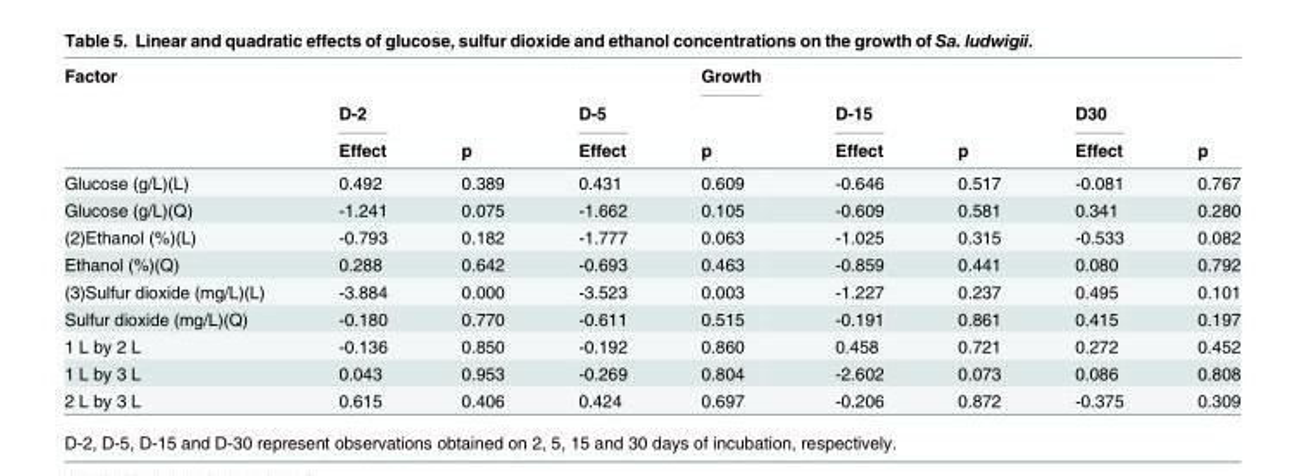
<table><thead><tr><td rowspan="3">Factor</td><td rowspan="3">D-2 Effect</td><td rowspan="3">p</td><td rowspan="3">D-5 Effect</td><td rowspan="3">Growth p</td><td rowspan="3">D-15 Effect</td><td rowspan="3">p</td><td rowspan="3">D30 Effect</td><td rowspan="3">p</td></tr><tr></tr><tr></tr></thead><tbody><tr><td>Glucose (g/L)(L)</td><td>0.492</td><td>0.389</td><td>0.431</td><td>0.609</td><td>-0.646</td><td>0.517</td><td>-0.081</td><td>0.767</td></tr><tr><td>Glucose (g/L)(Q)</td><td>-1.241</td><td>0.075</td><td>-1.662</td><td>0.105</td><td>-0.609</td><td>0.581</td><td>0.341</td><td>0.280</td></tr><tr><td>(2)Ethanol (%)(L)</td><td>-0.793</td><td>0.182</td><td>-1.777</td><td>0.063</td><td>-1.025</td><td>0.315</td><td>-0.533</td><td>0.082</td></tr><tr><td>Ethanol (%)(Q)</td><td>0.288</td><td>0.642</td><td>-0.693</td><td>0.463</td><td>-0.859</td><td>0.441</td><td>0.080</td><td>0.792</td></tr><tr><td>(3)Sulfur dioxide (mg/L)(L)</td><td>-3.884</td><td>0.000</td><td>-3.523</td><td>0.003</td><td>-1.227</td><td>0.237</td><td>0.495</td><td>0.101</td></tr><tr><td>Sulfur dioxide (mg/L)(Q)</td><td>-0.180</td><td>0.770</td><td>-0.611</td><td>0.515</td><td>-0.191</td><td>0.861</td><td>0.415</td><td>0.197</td></tr><tr><td>1 L by 2 L</td><td>-0.136</td><td>0.850</td><td>-0.192</td><td>0.860</td><td>0.458</td><td>0.721</td><td>0.272</td><td>0.452</td></tr><tr><td>1 L by 3 L</td><td>0.043</td><td>0.953</td><td>-0.269</td><td>0.804</td><td>-2.602</td><td>0.073</td><td>0.086</td><td>0.808</td></tr><tr><td>2 L by 3 L</td><td>0.615</td><td>0.406</td><td>0.424</td><td>0.697</td><td>-0.206</td><td>0.872</td><td>-0.375</td><td>0.309</td></tr></tbody></table>